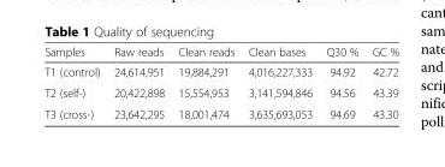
<table><thead><tr><td>Samples</td><td>Raw reads</td><td>Clean reads</td><td>Clean bases</td><td>Q30 %</td><td>GC %</td></tr></thead><tbody><tr><td>T1 (control)</td><td>24,614,951</td><td>19,884,291</td><td>4,016,227,333</td><td>94.92</td><td>42.72</td></tr><tr><td>T2 (self-)</td><td>20,422,898</td><td>15,554,953</td><td>3,141,594,846</td><td>94.56</td><td>43.39</td></tr><tr><td>T3 (cross-)</td><td>23,642,295</td><td>18,001,474</td><td>3,635,693,053</td><td>94.69</td><td>43.30</td></tr></tbody></table>